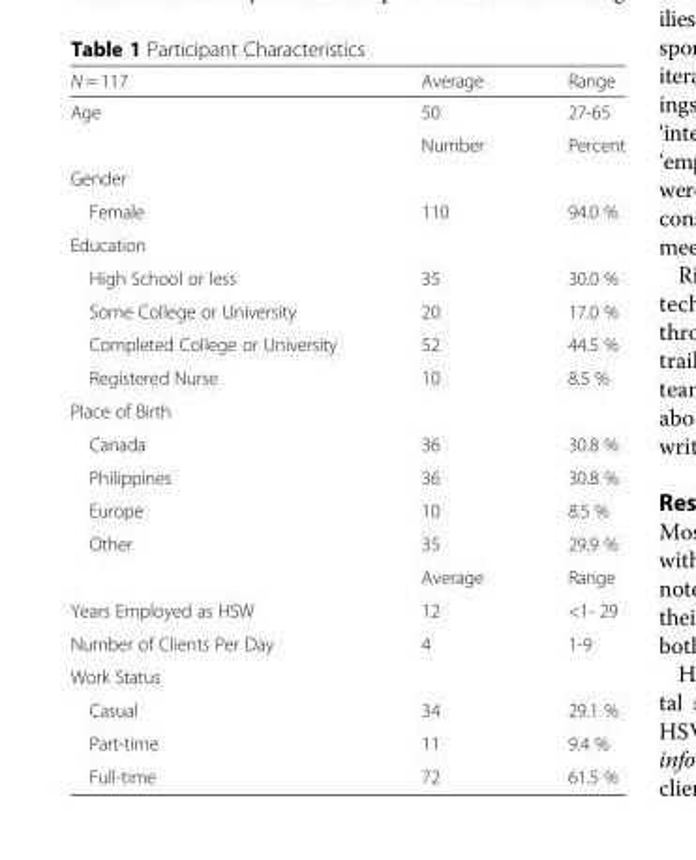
<table><thead><tr><td>N = 117</td><td>Average</td><td>Range</td></tr></thead><tbody><tr><td rowspan="2">Age</td><td>50</td><td>27-65</td></tr><tr><td>Number</td><td>Percent</td></tr><tr><td colspan="3">Gender</td></tr><tr><td>Female</td><td>110</td><td>94.0 %</td></tr><tr><td colspan="3">Education</td></tr><tr><td>High School or less</td><td>35</td><td>30.0 %</td></tr><tr><td>Some College or University</td><td>20</td><td>17.0 %</td></tr><tr><td>Completed College or University</td><td>52</td><td>44.5 %</td></tr><tr><td>Registered Nurse</td><td>10</td><td>8.5 %</td></tr><tr><td colspan="3">Place of Birth</td></tr><tr><td>Canada</td><td>36</td><td>30.8 %</td></tr><tr><td>Philippines</td><td>36</td><td>30.8 %</td></tr><tr><td>Europe</td><td>10</td><td>8.5 %</td></tr><tr><td rowspan="2">Other</td><td>35</td><td>29.9 %</td></tr><tr><td>Average</td><td>Range</td></tr><tr><td>Years Employed as HSW</td><td>12</td><td>&lt;1- 29</td></tr><tr><td>Number of Clients Per Day</td><td>4</td><td>1-9</td></tr><tr><td colspan="3">Work Status</td></tr><tr><td>Casual</td><td>34</td><td>29.1 %</td></tr><tr><td>Part-time</td><td>11</td><td>9.4 %</td></tr><tr><td>Full-time</td><td>72</td><td>61.5 %</td></tr></tbody></table>